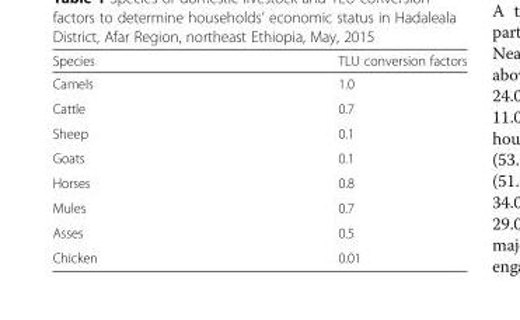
<table><thead><tr><td>Species</td><td>TLU conversion factors</td></tr></thead><tbody><tr><td>Camels</td><td>1.0</td></tr><tr><td>Cattle</td><td>0.7</td></tr><tr><td>Sheep</td><td>0.1</td></tr><tr><td>Goats</td><td>0.1</td></tr><tr><td>Horses</td><td>0.8</td></tr><tr><td>Mules</td><td>0.7</td></tr><tr><td>Asses</td><td>0.5</td></tr><tr><td>Chicken</td><td>0.01</td></tr></tbody></table>